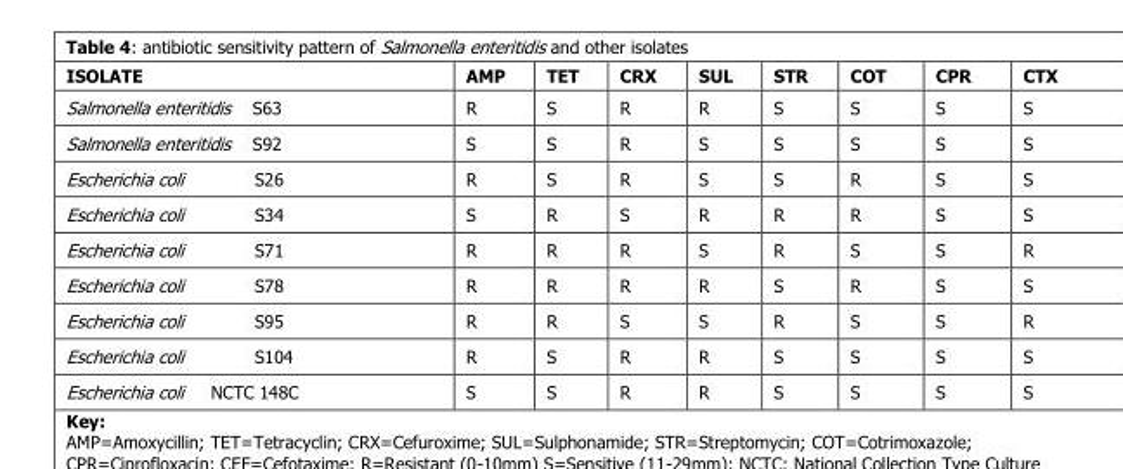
<table><thead><tr><td>ISOLATE</td><td>AMP</td><td>TET</td><td>CRX</td><td>SUL</td><td>STR</td><td>COT</td><td>CPR</td><td>CTX</td></tr></thead><tbody><tr><td>Salmonella enteritidis S63</td><td>R</td><td>S</td><td>R</td><td>R</td><td>S</td><td>S</td><td>S</td><td>S</td></tr><tr><td>Salmonella enteritidis S92</td><td>S</td><td>S</td><td>R</td><td>S</td><td>S</td><td>S</td><td>S</td><td>S</td></tr><tr><td>Escherichia coli S26</td><td>R</td><td>S</td><td>R</td><td>S</td><td>S</td><td>R</td><td>S</td><td>S</td></tr><tr><td>Escherichia coli S34</td><td>S</td><td>R</td><td>S</td><td>R</td><td>R</td><td>R</td><td>S</td><td>S</td></tr><tr><td>Escherichia coli S71</td><td>R</td><td>R</td><td>R</td><td>S</td><td>R</td><td>S</td><td>S</td><td>R</td></tr><tr><td>Escherichia coli S78</td><td>R</td><td>R</td><td>R</td><td>R</td><td>S</td><td>R</td><td>S</td><td>S</td></tr><tr><td>Escherichia coli S95</td><td>R</td><td>R</td><td>S</td><td>S</td><td>R</td><td>S</td><td>S</td><td>R</td></tr><tr><td>Escherichia coli S104</td><td>R</td><td>S</td><td>R</td><td>R</td><td>S</td><td>S</td><td>S</td><td>S</td></tr><tr><td>Escherichia coli NCTC 148C</td><td>S</td><td>S</td><td>R</td><td>R</td><td>S</td><td>S</td><td>S</td><td>S</td></tr></tbody></table>